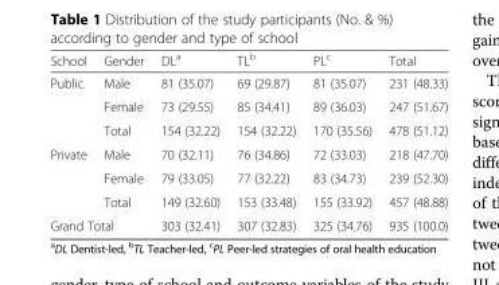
<table><thead><tr><td>School</td><td>Gender</td><td>DL<sup>a</sup></td><td>TL<sup>b</sup></td><td>PL<sup>c</sup></td><td>Total</td></tr></thead><tbody><tr><td rowspan="3">Public</td><td>Male</td><td>81 (35.07)</td><td>69 (29.87)</td><td>81 (35.07)</td><td>231 (48.33)</td></tr><tr><td>Female</td><td>73 (29.55)</td><td>85 (34.41)</td><td>89 (36.03)</td><td>247 (51.67)</td></tr><tr><td>Total</td><td>154 (32.22)</td><td>154 (32.22)</td><td>170 (35.56)</td><td>478 (51.12)</td></tr><tr><td rowspan="3">Private</td><td>Male</td><td>70 (32.11)</td><td>76 (34.86)</td><td>72 (33.03)</td><td>218 (47.70)</td></tr><tr><td>Female</td><td>79 (33.05)</td><td>77 (32.22)</td><td>83 (34.73)</td><td>239 (52.30)</td></tr><tr><td>Total</td><td>149 (32.60)</td><td>153 (33.48)</td><td>155 (33.92)</td><td>457 (48.88)</td></tr><tr><td colspan="2">Grand Total</td><td>303 (32.41)</td><td>307 (32.83)</td><td>325 (34.76)</td><td>935 (100.0)</td></tr></tbody></table>